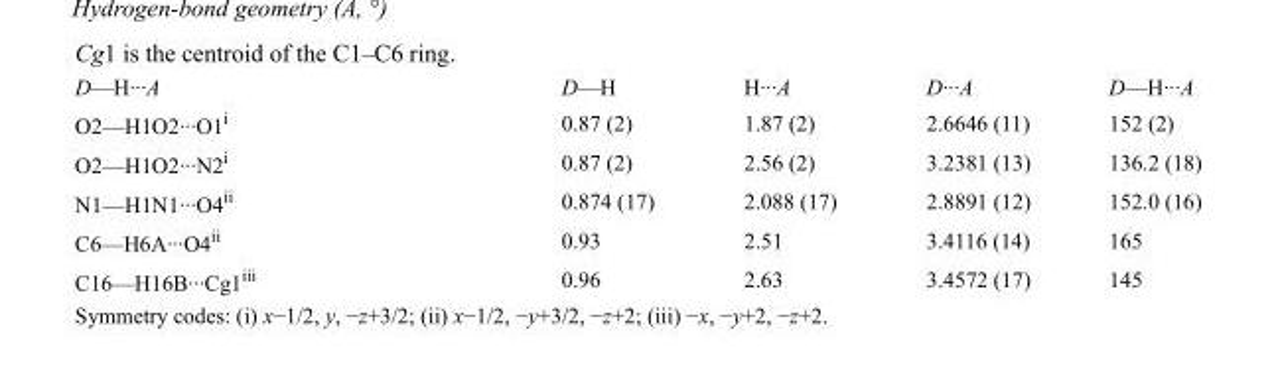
<table><tbody><tr><td>D—H···A</td><td>D—H</td><td>H···A</td><td>D···A</td><td>D—H···A</td></tr><tr><td>O2—H1O2···O1<sup>i</sup></td><td>0.87 (2)</td><td>1.87 (2)</td><td>2.6646 (11)</td><td>152 (2)</td></tr><tr><td>O2—H1O2···N2<sup>i</sup></td><td>0.87 (2)</td><td>2.56 (2)</td><td>3.2381 (13)</td><td>136.2 (18)</td></tr><tr><td>N1—H1N1···O4<sup>ii</sup></td><td>0.874 (17)</td><td>2.088 (17)</td><td>2.8891 (12)</td><td>152.0 (16)</td></tr><tr><td>C6—H6A···O4<sup>ii</sup></td><td>0.93</td><td>2.51</td><td>3.4116 (14)</td><td>165</td></tr><tr><td>C16—H16B···Cg1<sup>iii</sup></td><td>0.96</td><td>2.63</td><td>3.4572 (17)</td><td>145</td></tr></tbody></table>